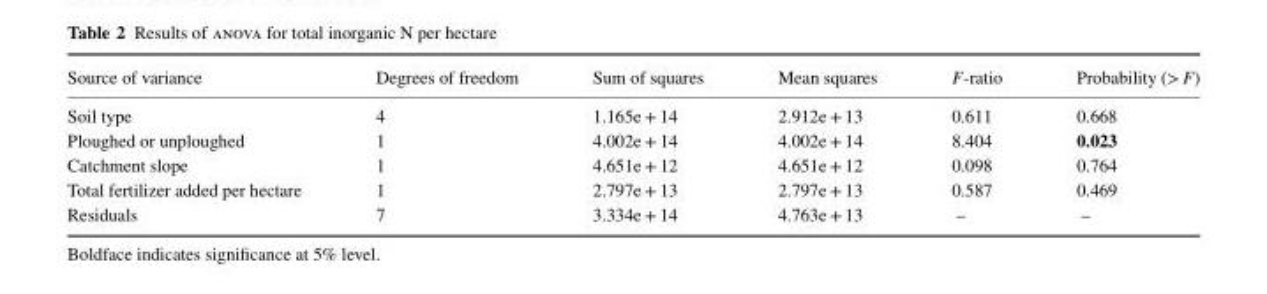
<table><thead><tr><td>Source of variance</td><td>Degrees of freedom</td><td>Sum of squares</td><td>Mean squares</td><td>F-ratio</td><td>Probability (&gt; F)</td></tr></thead><tbody><tr><td>Soil type</td><td>4</td><td>1.165e + 14</td><td>2.912e + 13</td><td>0.611</td><td>0.668</td></tr><tr><td>Ploughed or unploughed</td><td>1</td><td>4.002e + 14</td><td>4.002e + 14</td><td>8.404</td><td>0.023</td></tr><tr><td>Catchment slope</td><td>1</td><td>4.651e + 12</td><td>4.651e + 12</td><td>0.098</td><td>0.764</td></tr><tr><td>Total fertilizer added per hectare</td><td>1</td><td>2.797e + 13</td><td>2.797e + 13</td><td>0.587</td><td>0.469</td></tr><tr><td>Residuals</td><td>7</td><td>3.334e + 14</td><td>4.763e + 13</td><td>–</td><td>–</td></tr></tbody></table>